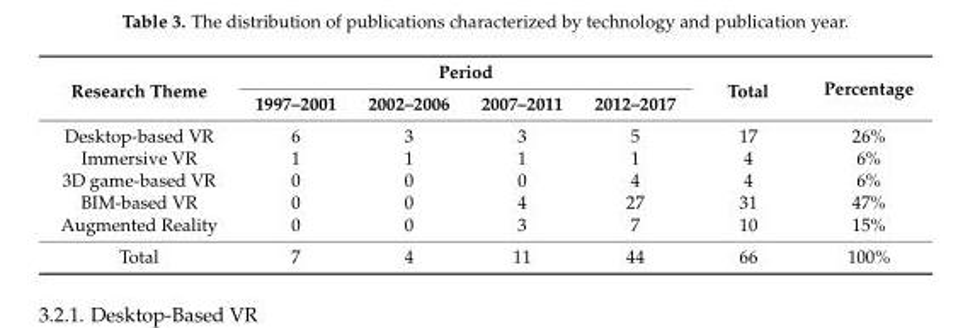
<table><thead><tr><td rowspan="2">Research Theme</td><td colspan="4">Period</td><td rowspan="2">Total</td><td rowspan="2">Percentage</td></tr><tr><td>1997–2001</td><td>2002–2006</td><td>2007–2011</td><td>2012–2017</td></tr></thead><tbody><tr><td>Desktop-based VR</td><td>6</td><td>3</td><td>3</td><td>5</td><td>17</td><td>26%</td></tr><tr><td>Immersive VR</td><td>1</td><td>1</td><td>1</td><td>1</td><td>4</td><td>6%</td></tr><tr><td>3D game-based VR</td><td>0</td><td>0</td><td>0</td><td>4</td><td>4</td><td>6%</td></tr><tr><td>BIM-based VR</td><td>0</td><td>0</td><td>4</td><td>27</td><td>31</td><td>47%</td></tr><tr><td>Augmented Reality</td><td>0</td><td>0</td><td>3</td><td>7</td><td>10</td><td>15%</td></tr><tr><td>Total</td><td>7</td><td>4</td><td>11</td><td>44</td><td>66</td><td>100%</td></tr></tbody></table>